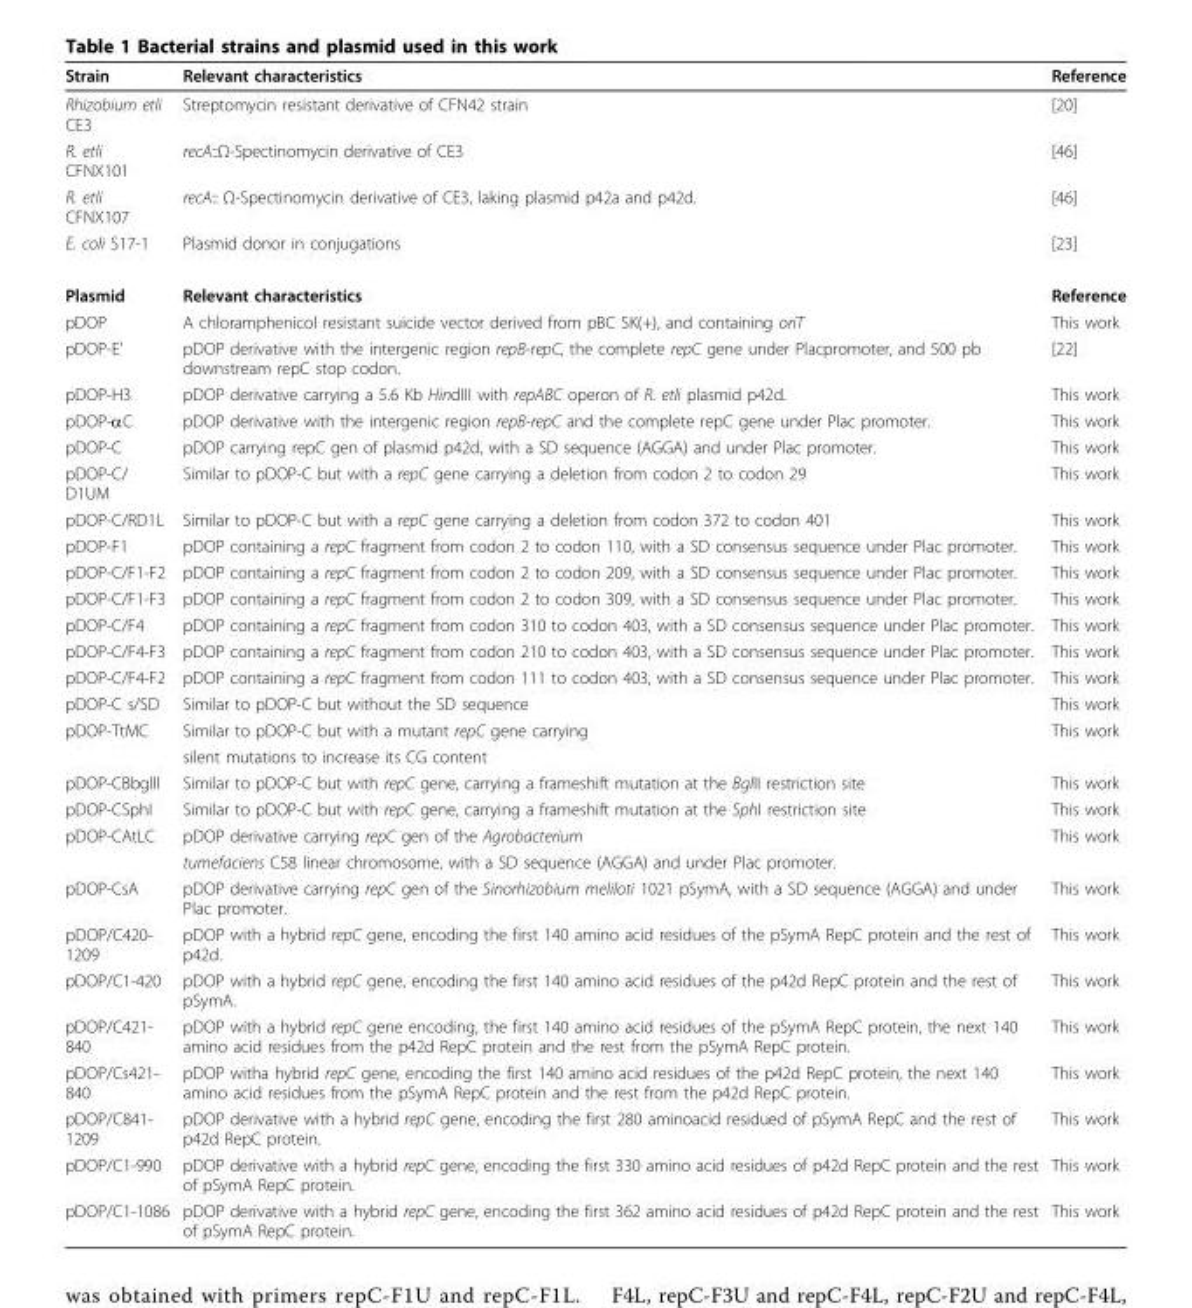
<table><thead><tr><td>Strain</td><td>Relevant characteristics</td><td>Reference</td></tr></thead><tbody><tr><td>Rhizobium etli CE3</td><td>Streptomycin resistant derivative of CFN42 strain</td><td>[20]</td></tr><tr><td>R. etli CFNX101</td><td>recA::Ω-Spectinomycin derivative of CE3</td><td>[46]</td></tr><tr><td>R. etli CFNX107</td><td>recA:: Ω-Spectinomycin derivative of CE3, laking plasmid p42a and p42d.</td><td>[46]</td></tr><tr><td>E. coli S17-1</td><td>Plasmid donor in conjugations</td><td>[23]</td></tr><tr><td>Plasmid</td><td>Relevant characteristics</td><td>Reference</td></tr><tr><td>pDOP</td><td>A chloramphenicol resistant suicide vector derived from pBC SK(+), and containing oriT</td><td>This work</td></tr><tr><td>pDOP-E’</td><td>pDOP derivative with the intergenic region repB-repC, the complete repC gene under Placpromoter, and 500 pb downstream repC stop codon.</td><td>[22]</td></tr><tr><td>pDOP-H3</td><td>pDOP derivative carrying a 5.6 Kb HindIII with repABC operon of R. etli plasmid p42d.</td><td>This work</td></tr><tr><td>pDOP-αC</td><td>pDOP derivative with the intergenic region repB-repC and the complete repC gene under Plac promoter.</td><td>This work</td></tr><tr><td>pDOP-C</td><td>pDOP carrying repC gen of plasmid p42d, with a SD sequence (AGGA) and under Plac promoter.</td><td>This work</td></tr><tr><td>pDOP-C/ D1UM</td><td>Similar to pDOP-C but with a repC gene carrying a deletion from codon 2 to codon 29</td><td>This work</td></tr><tr><td>pDOP-C/RD1L</td><td>Similar to pDOP-C but with a repC gene carrying a deletion from codon 372 to codon 401</td><td>This work</td></tr><tr><td>pDOP-F1</td><td>pDOP containing a repC fragment from codon 2 to codon 110, with a SD consensus sequence under Plac promoter.</td><td>This work</td></tr><tr><td>pDOP-C/F1-F2</td><td>pDOP containing a repC fragment from codon 2 to codon 209, with a SD consensus sequence under Plac promoter.</td><td>This work</td></tr><tr><td>pDOP-C/F1-F3</td><td>pDOP containing a repC fragment from codon 2 to codon 309, with a SD consensus sequence under Plac promoter.</td><td>This work</td></tr><tr><td>pDOP-C/F4</td><td>pDOP containing a repC fragment from codon 310 to codon 403, with a SD consensus sequence under Plac promoter.</td><td>This work</td></tr><tr><td>pDOP-C/F4-F3</td><td>pDOP containing a repC fragment from codon 210 to codon 403, with a SD consensus sequence under Plac promoter.</td><td>This work</td></tr><tr><td>pDOP-C/F4-F2</td><td>pDOP containing a repC fragment from codon 111 to codon 403, with a SD consensus sequence under Plac promoter.</td><td>This work</td></tr><tr><td>pDOP-C s/SD</td><td>Similar to pDOP-C but without the SD sequence</td><td>This work</td></tr><tr><td rowspan="2">pDOP-TtMC</td><td>Similar to pDOP-C but with a mutant repC gene carrying</td><td>This work</td></tr><tr><td>silent mutations to increase its CG content</td><td></td></tr><tr><td>pDOP-CBbglll</td><td>Similar to pDOP-C but with repC gene, carrying a frameshift mutation at the BglII restriction site</td><td>This work</td></tr><tr><td>pDOP-CSphI</td><td>Similar to pDOP-C but with repC gene, carrying a frameshift mutation at the SphI restriction site</td><td>This work</td></tr><tr><td rowspan="2">pDOP-CAtLC</td><td>pDOP derivative carrying repC gen of the Agrobacterium</td><td>This work</td></tr><tr><td>tumefaciens C58 linear chromosome, with a SD sequence (AGGA) and under Plac promoter.</td><td></td></tr><tr><td>pDOP-CsA</td><td>pDOP derivative carrying repC gen of the Sinorhizobium meliloti 1021 pSymA, with a SD sequence (AGGA) and under Plac promoter.</td><td>This work</td></tr><tr><td>pDOP/C420- 1209</td><td>pDOP with a hybrid repC gene, encoding the first 140 amino acid residues of the pSymA RepC protein and the rest of p42d.</td><td>This work</td></tr><tr><td>pDOP/C1-420</td><td>pDOP with a hybrid repC gene, encoding the first 140 amino acid residues of the p42d RepC protein and the rest of pSymA.</td><td>This work</td></tr><tr><td>pDOP/C421- 840</td><td>pDOP with a hybrid repC gene encoding, the first 140 amino acid residues of the pSymA RepC protein, the next 140 amino acid residues from the p42d RepC protein and the rest from the pSymA RepC protein.</td><td>This work</td></tr><tr><td>pDOP/Cs421- 840</td><td>pDOP witha hybrid repC gene, encoding the first 140 amino acid residues of the p42d RepC protein, the next 140 amino acid residues from the pSymA RepC protein and the rest from the p42d RepC protein.</td><td>This work</td></tr><tr><td>pDOP/C841- 1209</td><td>pDOP derivative with a hybrid repC gene, encoding the first 280 aminoacid residued of pSymA RepC and the rest of p42d RepC protein.</td><td>This work</td></tr><tr><td>pDOP/C1-990</td><td>pDOP derivative with a hybrid repC gene, encoding the first 330 amino acid residues of p42d RepC protein and the rest of pSymA RepC protein.</td><td>This work</td></tr><tr><td>pDOP/C1-1086</td><td>pDOP derivative with a hybrid repC gene, encoding the first 362 amino acid residues of p42d RepC protein and the rest of pSymA RepC protein.</td><td>This work</td></tr></tbody></table>